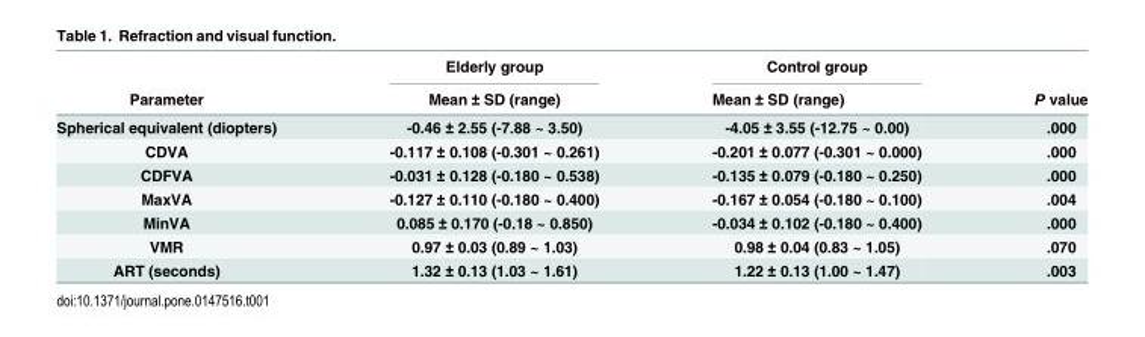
<table><thead><tr><td rowspan="2">Parameter</td><td rowspan="2">Elderly group Mean ± SD (range)</td><td rowspan="2">Control group Mean ± SD (range)</td><td rowspan="2">P value</td></tr><tr></tr></thead><tbody><tr><td>Spherical equivalent (diopters)</td><td>-0.46 ± 2.55 (-7.88 ~ 3.50)</td><td>-4.05 ± 3.55 (-12.75 ~ 0.00)</td><td>.000</td></tr><tr><td>CDVA</td><td>-0.117 ± 0.108 (-0.301 ~ 0.261)</td><td>-0.201 ± 0.077 (-0.301 ~ 0.000)</td><td>.000</td></tr><tr><td>CDFVA</td><td>-0.031 ± 0.128 (-0.180 ~ 0.538)</td><td>-0.135 ± 0.079 (-0.180 ~ 0.250)</td><td>.000</td></tr><tr><td>MaxVA</td><td>-0.127 ± 0.110 (-0.180 ~ 0.400)</td><td>-0.167 ± 0.054 (-0.180 ~ 0.100)</td><td>.004</td></tr><tr><td>MinVA</td><td>0.085 ± 0.170 (-0.18 ~ 0.850)</td><td>-0.034 ± 0.102 (-0.180 ~ 0.400)</td><td>.000</td></tr><tr><td>VMR</td><td>0.97 ± 0.03 (0.89 ~ 1.03)</td><td>0.98 ± 0.04 (0.83 ~ 1.05)</td><td>.070</td></tr><tr><td>ART (seconds)</td><td>1.32 ± 0.13 (1.03 ~ 1.61)</td><td>1.22 ± 0.13 (1.00 ~ 1.47)</td><td>.003</td></tr></tbody></table>